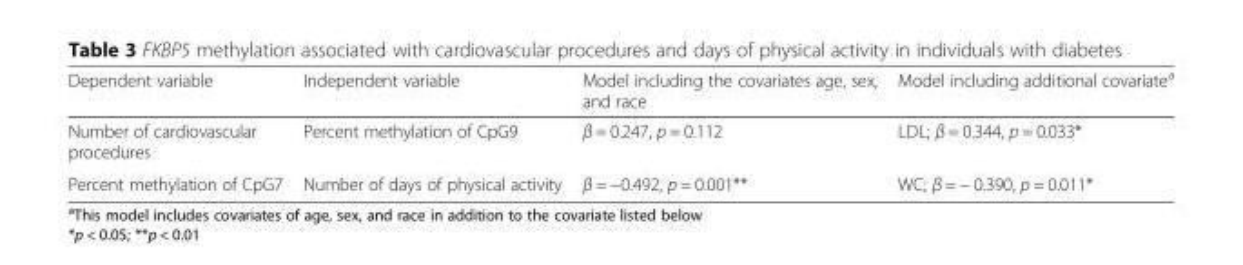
<table><thead><tr><td>Dependent variable</td><td>Independent variable</td><td>Model including the covariates age, sex, and race</td><td>Model including additional covariate<sup>a</sup></td></tr></thead><tbody><tr><td>Number of cardiovascular procedures</td><td>Percent methylation of CpG9</td><td>β = 0.247, p = 0.112</td><td>LDL; β = 0.344, p = 0.033*</td></tr><tr><td>Percent methylation of CpG7</td><td>Number of days of physical activity</td><td>β = −0.492, p = 0.001**</td><td>WC; β = − 0.390, p = 0.011*</td></tr></tbody></table>